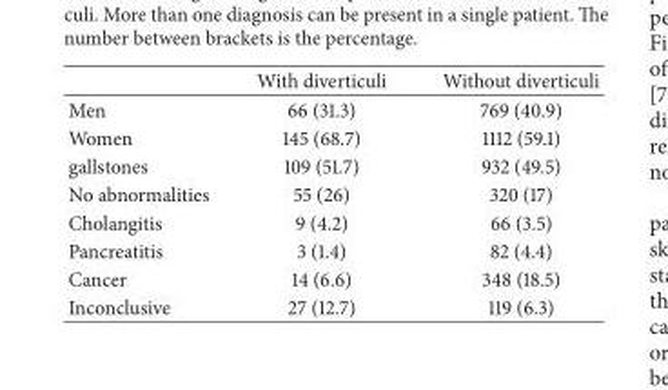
<table><thead><tr><td></td><td>With diverticuli</td><td>Without diverticuli</td></tr></thead><tbody><tr><td>Men</td><td>66 (31.3)</td><td>769 (40.9)</td></tr><tr><td>Women</td><td>145 (68.7)</td><td>1112 (59.1)</td></tr><tr><td>gallstones</td><td>109 (51.7)</td><td>932 (49.5)</td></tr><tr><td>No abnormalities</td><td>55 (26)</td><td>320 (17)</td></tr><tr><td>Cholangitis</td><td>9 (4.2)</td><td>66 (3.5)</td></tr><tr><td>Pancreatitis</td><td>3 (1.4)</td><td>82 (4.4)</td></tr><tr><td>Cancer</td><td>14 (6.6)</td><td>348 (18.5)</td></tr><tr><td>Inconclusive</td><td>27 (12.7)</td><td>119 (6.3)</td></tr></tbody></table>